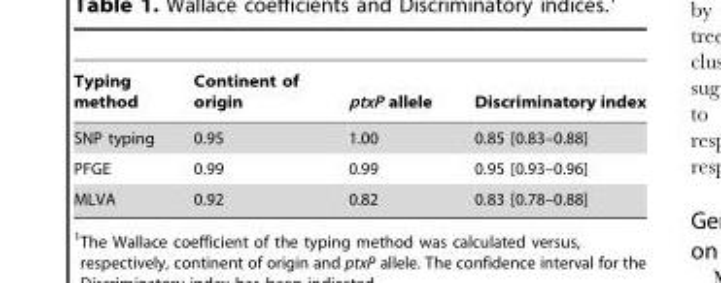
<table><thead><tr><td>Typing method</td><td>Continent of origin</td><td>ptxP allele</td><td>Discriminatory index</td></tr></thead><tbody><tr><td>SNP typing</td><td>0.95</td><td>1.00</td><td>0.85 [0.83–0.88]</td></tr><tr><td>PFGE</td><td>0.99</td><td>0.99</td><td>0.95 [0.93–0.96]</td></tr><tr><td>MLVA</td><td>0.92</td><td>0.82</td><td>0.83 [0.78–0.88]</td></tr></tbody></table>